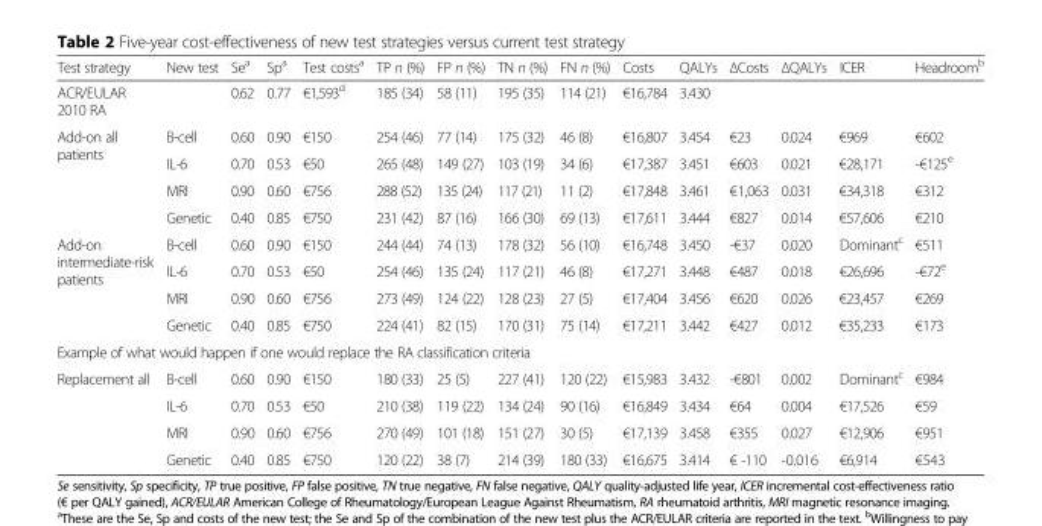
<table><thead><tr><td>Test strategy</td><td>New test</td><td>Se<sup>a</sup></td><td>Sp<sup>a</sup></td><td>Test costs<sup>a</sup></td><td>TP n (%)</td><td>FP n (%)</td><td>TN n (%)</td><td>FN n (%)</td><td>Costs</td><td>QALYs</td><td>ΔCosts</td><td>ΔQALYs</td><td>ICER</td><td>Headroom<sup>b</sup></td></tr></thead><tbody><tr><td>ACR/EULAR 2010 RA</td><td></td><td>0.62</td><td>0.77</td><td>€1,593<sup>d</sup></td><td>185 (34)</td><td>58 (11)</td><td>195 (35)</td><td>114 (21)</td><td>€16,784</td><td>3.430</td><td></td><td></td><td></td><td></td></tr><tr><td rowspan="4">Add-on all patients</td><td>B-cell</td><td>0.60</td><td>0.90</td><td>€150</td><td>254 (46)</td><td>77 (14)</td><td>175 (32)</td><td>46 (8)</td><td>€16,807</td><td>3.454</td><td>€23</td><td>0.024</td><td>€969</td><td>€602</td></tr><tr><td>IL-6</td><td>0.70</td><td>0.53</td><td>€50</td><td>265 (48)</td><td>149 (27)</td><td>103 (19)</td><td>34 (6)</td><td>€17,387</td><td>3.451</td><td>€603</td><td>0.021</td><td>€28,171</td><td>-€125<sup>e</sup></td></tr><tr><td>MRI</td><td>0.90</td><td>0.60</td><td>€756</td><td>288 (52)</td><td>135 (24)</td><td>117 (21)</td><td>11 (2)</td><td>€17,848</td><td>3.461</td><td>€1,063</td><td>0.031</td><td>€34,318</td><td>€312</td></tr><tr><td>Genetic</td><td>0.40</td><td>0.85</td><td>€750</td><td>231 (42)</td><td>87 (16)</td><td>166 (30)</td><td>69 (13)</td><td>€17,611</td><td>3.444</td><td>€827</td><td>0.014</td><td>€57,606</td><td>€210</td></tr><tr><td rowspan="4">Add-on intermediate-risk patients</td><td>B-cell</td><td>0.60</td><td>0.90</td><td>€150</td><td>244 (44)</td><td>74 (13)</td><td>178 (32)</td><td>56 (10)</td><td>€16,748</td><td>3.450</td><td>-€37</td><td>0.020</td><td>Dominant<sup>c</sup></td><td>€511</td></tr><tr><td>IL-6</td><td>0.70</td><td>0.53</td><td>€50</td><td>254 (46)</td><td>135 (24)</td><td>117 (21)</td><td>46 (8)</td><td>€17,271</td><td>3.448</td><td>€487</td><td>0.018</td><td>€26,696</td><td>-€72<sup>e</sup></td></tr><tr><td>MRI</td><td>0.90</td><td>0.60</td><td>€756</td><td>273 (49)</td><td>124 (22)</td><td>128 (23)</td><td>27 (5)</td><td>€17,404</td><td>3.456</td><td>€620</td><td>0.026</td><td>€23,457</td><td>€269</td></tr><tr><td>Genetic</td><td>0.40</td><td>0.85</td><td>€750</td><td>224 (41)</td><td>82 (15)</td><td>170 (31)</td><td>75 (14)</td><td>€17,211</td><td>3.442</td><td>€427</td><td>0.012</td><td>€35,233</td><td>€173</td></tr><tr><td colspan="15">Example of what would happen if one would replace the RA classification criteria</td></tr><tr><td rowspan="4">Replacement all</td><td>B-cell</td><td>0.60</td><td>0.90</td><td>€150</td><td>180 (33)</td><td>25 (5)</td><td>227 (41)</td><td>120 (22)</td><td>€15,983</td><td>3.432</td><td>-€801</td><td>0.002</td><td>Dominant<sup>c</sup></td><td>€984</td></tr><tr><td>IL-6</td><td>0.70</td><td>0.53</td><td>€50</td><td>210 (38)</td><td>119 (22)</td><td>134 (24)</td><td>90 (16)</td><td>€16,849</td><td>3.434</td><td>€64</td><td>0.004</td><td>€17,526</td><td>€59</td></tr><tr><td>MRI</td><td>0.90</td><td>0.60</td><td>€756</td><td>270 (49)</td><td>101 (18)</td><td>151 (27)</td><td>30 (5)</td><td>€17,139</td><td>3.458</td><td>€355</td><td>0.027</td><td>€12,906</td><td>€951</td></tr><tr><td>Genetic</td><td>0.40</td><td>0.85</td><td>€750</td><td>120 (22)</td><td>38 (7)</td><td>214 (39)</td><td>180 (33)</td><td>€16,675</td><td>3.414</td><td>€ -110</td><td>-0.016</td><td>€6,914</td><td>€543</td></tr></tbody></table>